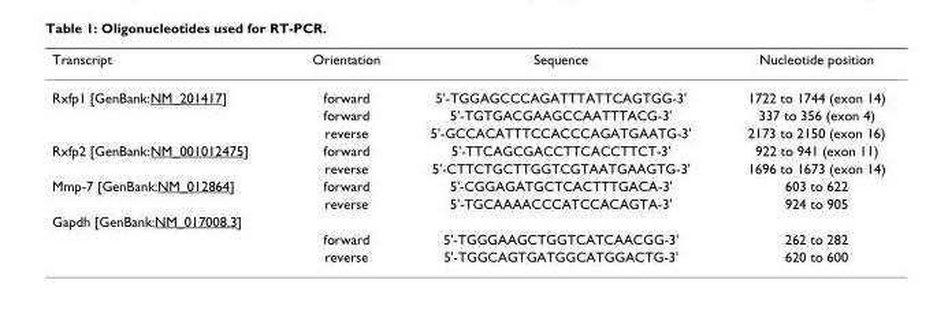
<table><thead><tr><td>Transcript</td><td>Orientation</td><td>Sequence</td><td>Nucleotide position</td></tr></thead><tbody><tr><td rowspan="3">Rxfp1 [GenBank:NM_201417]</td><td>forward</td><td>5&#x27;-TGGAGCCCAGATTTATTCAGTGG-3&#x27;</td><td>1722 to 1744 (exon 14)</td></tr><tr><td>forward</td><td>5&#x27;-TGTGACGAAGCCAATTTACG-3&#x27;</td><td>337 to 356 (exon 4)</td></tr><tr><td>reverse</td><td>5&#x27;-GCCACATTTCCACCCAGATGAATG-3&#x27;</td><td>2173 to 2150 (exon 16)</td></tr><tr><td rowspan="2">Rxfp2 [GenBank:NM_001012475]</td><td>forward</td><td>5&#x27;-TTCAGCGACCTTCACCTTCT-3&#x27;</td><td>922 to 941 (exon 11)</td></tr><tr><td>reverse</td><td>5&#x27;-CTTCTGCTTGGTCGTAATGAAGTG-3&#x27;</td><td>1696 to 1673 (exon 14)</td></tr><tr><td rowspan="2">Mmp-7 [GenBank:NM_012864]</td><td>forward</td><td>5&#x27;-CGGAGATGCTCACTTTGACA-3&#x27;</td><td>603 to 622</td></tr><tr><td>reverse</td><td>5&#x27;-TGCAAAACCCATCCACAGTA-3&#x27;</td><td>924 to 905</td></tr><tr><td colspan="4">Gapdh [GenBank:NM_017008.3]</td></tr><tr><td></td><td>forward</td><td>5&#x27;-TGGGAAGCTGGTCATCAACGG-3&#x27;</td><td>262 to 282</td></tr><tr><td></td><td>reverse</td><td>5&#x27;-TGGCAGTGATGGCATGGACTG-3&#x27;</td><td>620 to 600</td></tr></tbody></table>